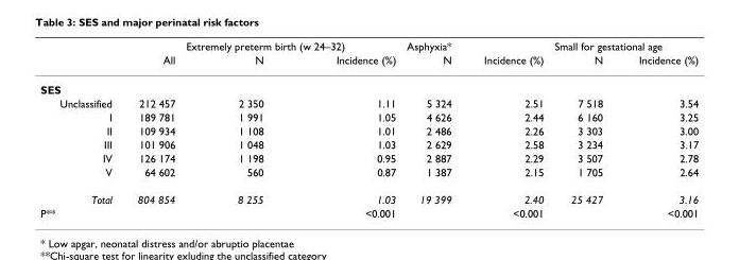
<table><thead><tr><td rowspan="2"></td><td rowspan="2">All</td><td colspan="2">Extremely preterm birth (w 24–32)</td><td colspan="2">Asphyxia*</td><td colspan="2">Small for gestational age</td></tr><tr><td>N</td><td>Incidence (%)</td><td>N</td><td>Incidence (%)</td><td>N</td><td>Incidence (%)</td></tr></thead><tbody><tr><td colspan="8">SES</td></tr><tr><td>Unclassified</td><td>212 457</td><td>2 350</td><td>1.11</td><td>5 324</td><td>2.51</td><td>7 518</td><td>3.54</td></tr><tr><td>I</td><td>189 781</td><td>1 991</td><td>1.05</td><td>4 626</td><td>2.44</td><td>6 160</td><td>3.25</td></tr><tr><td>II</td><td>109 934</td><td>1 108</td><td>1.01</td><td>2 486</td><td>2.26</td><td>3 303</td><td>3.00</td></tr><tr><td>III</td><td>101 906</td><td>1 048</td><td>1.03</td><td>2 629</td><td>2.58</td><td>3 234</td><td>3.17</td></tr><tr><td>IV</td><td>126 174</td><td>1 198</td><td>0.95</td><td>2 887</td><td>2.29</td><td>3 507</td><td>2.78</td></tr><tr><td>V</td><td>64 602</td><td>560</td><td>0.87</td><td>1 387</td><td>2.15</td><td>1 705</td><td>2.64</td></tr><tr><td>Total</td><td>804 854</td><td>8 255</td><td>1.03</td><td>19 399</td><td>2.40</td><td>25 427</td><td>3.16</td></tr><tr><td>P**</td><td></td><td></td><td>&lt;0.001</td><td></td><td>&lt;0.001</td><td></td><td>&lt;0.001</td></tr></tbody></table>